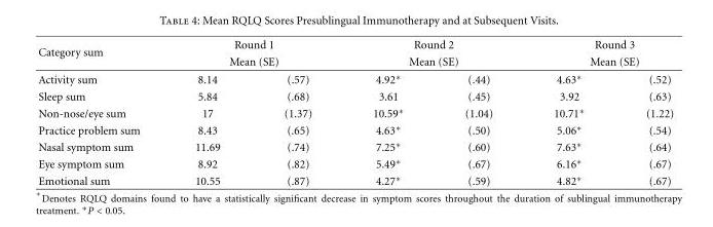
<table><thead><tr><td rowspan="3">Category sum Activity sum</td><td rowspan="2" colspan="2">Round 1 Mean (SE)</td><td rowspan="2" colspan="2">Round 2 Mean (SE)</td><td rowspan="2" colspan="2">Round 3 Mean (SE)</td></tr><tr></tr><tr><td>8.14</td><td>(.57)</td><td>4.92∗</td><td>(.44)</td><td>4.63∗</td><td>(.52)</td></tr></thead><tbody><tr><td>Sleep sum</td><td>5.84</td><td>(.68)</td><td>3.61</td><td>(.45)</td><td>3.92</td><td>(.63)</td></tr><tr><td>Non-nose/eye sum</td><td>17</td><td>(1.37)</td><td>10.59∗</td><td>(1.04)</td><td>10.71∗</td><td>(1.22)</td></tr><tr><td>Practice problem sum</td><td>8.43</td><td>(.65)</td><td>4.63∗</td><td>(.50)</td><td>5.06∗</td><td>(.54)</td></tr><tr><td>Nasal symptom sum</td><td>11.69</td><td>(.74)</td><td>7.25∗</td><td>(.60)</td><td>7.63∗</td><td>(.64)</td></tr><tr><td>Eye symptom sum</td><td>8.92</td><td>(.82)</td><td>5.49∗</td><td>(.67)</td><td>6.16∗</td><td>(.67)</td></tr><tr><td>Emotional sum</td><td>10.55</td><td>(.87)</td><td>4.27∗</td><td>(.59)</td><td>4.82∗</td><td>(.67)</td></tr></tbody></table>